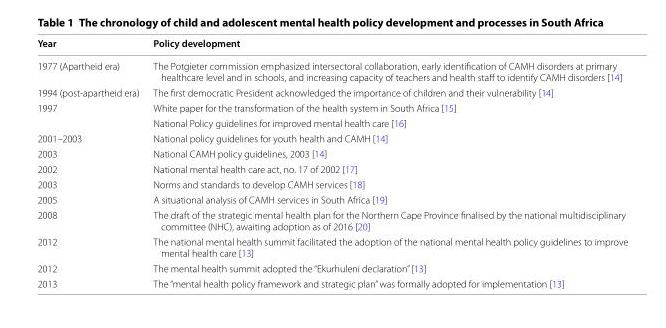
<table><thead><tr><td>Year</td><td>Policy development</td></tr></thead><tbody><tr><td>1977 (Apartheid era)</td><td>The Potgieter commission emphasized intersectoral collaboration, early identification of CAMH disorders at primary healthcare level and in schools, and increasing capacity of teachers and health staff to identify CAMH disorders [14]</td></tr><tr><td>1994 (post-apartheid era)</td><td>The first democratic President acknowledged the importance of children and their vulnerability [14]</td></tr><tr><td rowspan="2">1997</td><td>White paper for the transformation of the health system in South Africa [15]</td></tr><tr><td>National Policy guidelines for improved mental health care [16]</td></tr><tr><td>2001–2003</td><td>National policy guidelines for youth health and CAMH [14]</td></tr><tr><td>2003</td><td>National CAMH policy guidelines, 2003 [14]</td></tr><tr><td>2002</td><td>National mental health care act, no. 17 of 2002 [17]</td></tr><tr><td>2003</td><td>Norms and standards to develop CAMH services [18]</td></tr><tr><td>2005</td><td>A situational analysis of CAMH services in South Africa [19]</td></tr><tr><td>2008</td><td>The draft of the strategic mental health plan for the Northern Cape Province finalised by the national multidisciplinary committee (NHC), awaiting adoption as of 2016 [20]</td></tr><tr><td>2012</td><td>The national mental health summit facilitated the adoption of the national mental health policy guidelines to improve mental health care [13]</td></tr><tr><td>2012</td><td>The mental health summit adopted the “Ekurhuleni declaration” [13]</td></tr><tr><td>2013</td><td>The “mental health policy framework and strategic plan” was formally adopted for implementation [13]</td></tr></tbody></table>